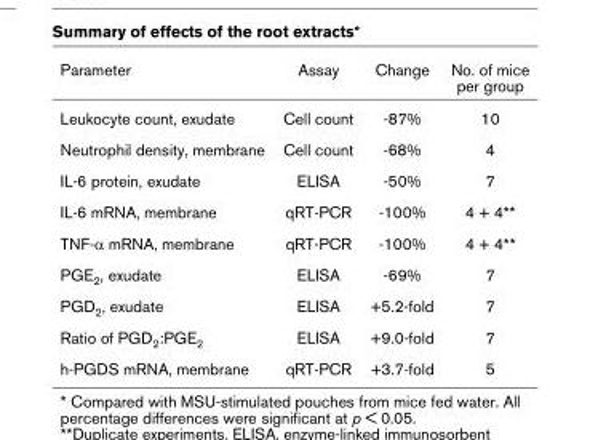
<table><thead><tr><td>Parameter</td><td>Assay</td><td>Change</td><td>No. of mice per group</td></tr></thead><tbody><tr><td>Leukocyte count, exudate</td><td>Cell count</td><td>-87%</td><td>10</td></tr><tr><td>Neutrophil density, membrane</td><td>Cell count</td><td>-68%</td><td>4</td></tr><tr><td>IL-6 protein, exudate</td><td>ELISA</td><td>-50%</td><td>7</td></tr><tr><td>IL-6 mRNA, membrane</td><td>qRT-PCR</td><td>-100%</td><td>4 + 4**</td></tr><tr><td>TNF-α mRNA, membrane</td><td>qRT-PCR</td><td>-100%</td><td>4 + 4**</td></tr><tr><td>PGE<sub>2</sub>, exudate</td><td>ELISA</td><td>-69%</td><td>7</td></tr><tr><td>PGD<sub>2</sub>, exudate</td><td>ELISA</td><td>+5.2-fold</td><td>7</td></tr><tr><td>Ratio of PGD<sub>2</sub>:PGE<sub>2</sub></td><td>ELISA</td><td>+9.0-fold</td><td>7</td></tr><tr><td>h-PGDS mRNA, membrane</td><td>qRT-PCR</td><td>+3.7-fold</td><td>5</td></tr></tbody></table>